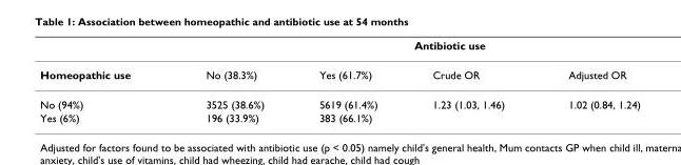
<table><thead><tr><td rowspan="2">Homeopathic use</td><td colspan="4">Antibiotic use</td></tr><tr><td>No (38.3%)</td><td>Yes (61.7%)</td><td>Crude OR</td><td>Adjusted OR</td></tr></thead><tbody><tr><td>No (94%)</td><td>3525 (38.6%)</td><td>5619 (61.4%)</td><td>1.23 (1.03, 1.46)</td><td>1.02 (0.84, 1.24)</td></tr><tr><td>Yes (6%)</td><td>196 (33.9%)</td><td>383 (66.1%)</td><td></td><td></td></tr></tbody></table>